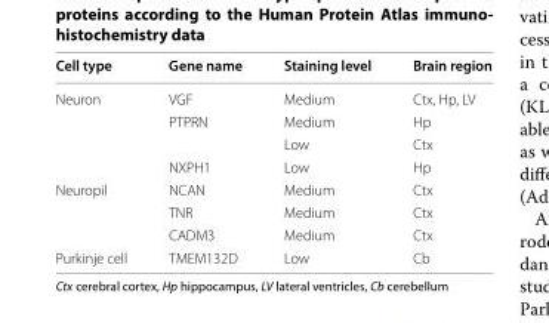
<table><thead><tr><td>Cell type</td><td>Gene name</td><td>Staining level</td><td>Brain region</td></tr></thead><tbody><tr><td rowspan="4">Neuron</td><td>VGF</td><td>Medium</td><td>Ctx, Hp, LV</td></tr><tr><td>PTPRN</td><td>Medium</td><td>Hp</td></tr><tr><td></td><td>Low</td><td>Ctx</td></tr><tr><td>NXPH1</td><td>Low</td><td>Hp</td></tr><tr><td rowspan="3">Neuropil</td><td>NCAN</td><td>Medium</td><td>Ctx</td></tr><tr><td>TNR</td><td>Medium</td><td>Ctx</td></tr><tr><td>CADM3</td><td>Medium</td><td>Ctx</td></tr><tr><td>Purkinje cell</td><td>TMEM132D</td><td>Low</td><td>Cb</td></tr></tbody></table>